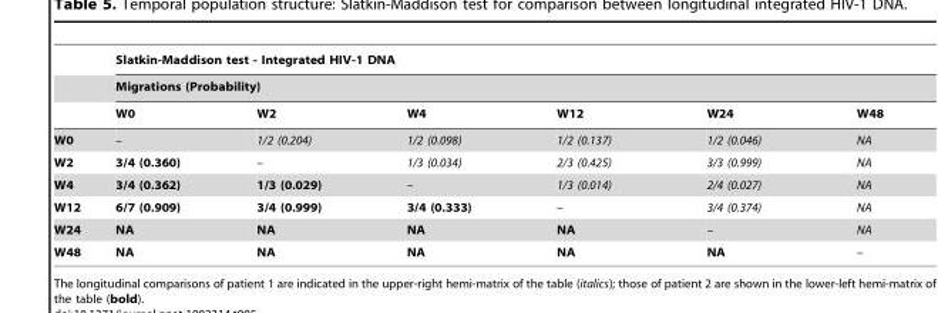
<table><thead><tr><td rowspan="3"></td><td rowspan="2" colspan="6">Slatkin-Maddison test - Integrated HIV-1 DNA Migrations (Probability)</td></tr><tr></tr><tr><td>W0</td><td>W2</td><td>W4</td><td>W12</td><td>W24</td><td>W48</td></tr></thead><tbody><tr><td>W0</td><td>–</td><td>1/2 (0.204)</td><td>1/2 (0.098)</td><td>1/2 (0.137)</td><td>1/2 (0.046)</td><td>NA</td></tr><tr><td>W2</td><td>3/4 (0.360)</td><td>–</td><td>1/3 (0.034)</td><td>2/3 (0.425)</td><td>3/3 (0.999)</td><td>NA</td></tr><tr><td>W4</td><td>3/4 (0.362)</td><td>1/3 (0.029)</td><td>–</td><td>1/3 (0.014)</td><td>2/4 (0.027)</td><td>NA</td></tr><tr><td>W12</td><td>6/7 (0.909)</td><td>3/4 (0.999)</td><td>3/4 (0.333)</td><td>–</td><td>3/4 (0.374)</td><td>NA</td></tr><tr><td>W24</td><td>NA</td><td>NA</td><td>NA</td><td>NA</td><td>–</td><td>NA</td></tr><tr><td>W48</td><td>NA</td><td>NA</td><td>NA</td><td>NA</td><td>NA</td><td>–</td></tr></tbody></table>